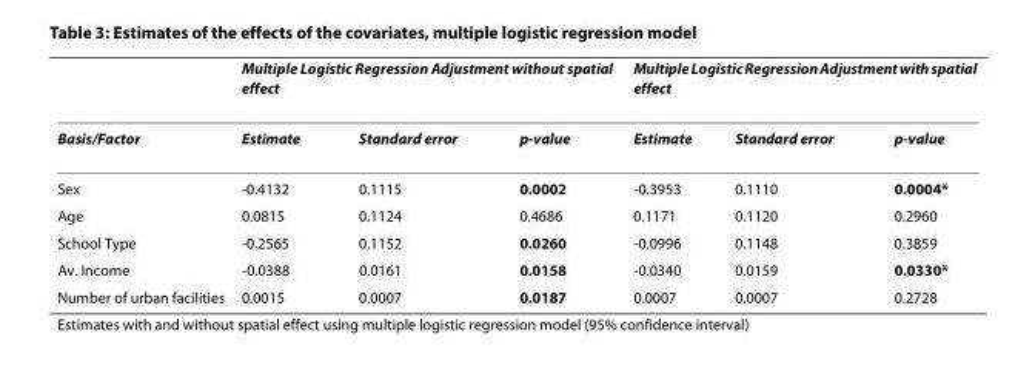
<table><thead><tr><td rowspan="2">Basis/Factor</td><td colspan="3">Multiple Logistic Regression Adjustment without spatial effect</td><td colspan="3">Multiple Logistic Regression Adjustment with spatial effect</td></tr><tr><td>Estimate</td><td>Standard error</td><td>p-value</td><td>Estimate</td><td>Standard error</td><td>p-value</td></tr></thead><tbody><tr><td>Sex</td><td>-0.4132</td><td>0.1115</td><td>0.0002</td><td>-0.3953</td><td>0.1110</td><td>0.0004*</td></tr><tr><td>Age</td><td>0.0815</td><td>0.1124</td><td>0.4686</td><td>0.1171</td><td>0.1120</td><td>0.2960</td></tr><tr><td>School Type</td><td>-0.2565</td><td>0.1152</td><td>0.0260</td><td>-0.0996</td><td>0.1148</td><td>0.3859</td></tr><tr><td>Av. Income</td><td>-0.0388</td><td>0.0161</td><td>0.0158</td><td>-0.0340</td><td>0.0159</td><td>0.0330*</td></tr><tr><td>Number of urban facilities</td><td>0.0015</td><td>0.0007</td><td>0.0187</td><td>0.0007</td><td>0.0007</td><td>0.2728</td></tr></tbody></table>